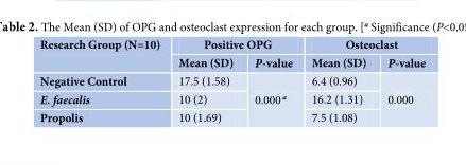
<table><thead><tr><td rowspan="2">Research Group (N=10)</td><td colspan="2">Positive OPG</td><td colspan="2">Osteoclast</td></tr><tr><td>Mean (SD)</td><td>P-value</td><td>Mean (SD)</td><td>P-value</td></tr></thead><tbody><tr><td>Negative Control</td><td>17.5 (1.58)</td><td rowspan="3">0.000 <sup>a</sup></td><td>6.4 (0.96)</td><td rowspan="3">0.000</td></tr><tr><td>E. faecalis</td><td>10 (2)</td><td>16.2 (1.31)</td></tr><tr><td>Propolis</td><td>10 (1.69)</td><td>7.5 (1.08)</td></tr></tbody></table>